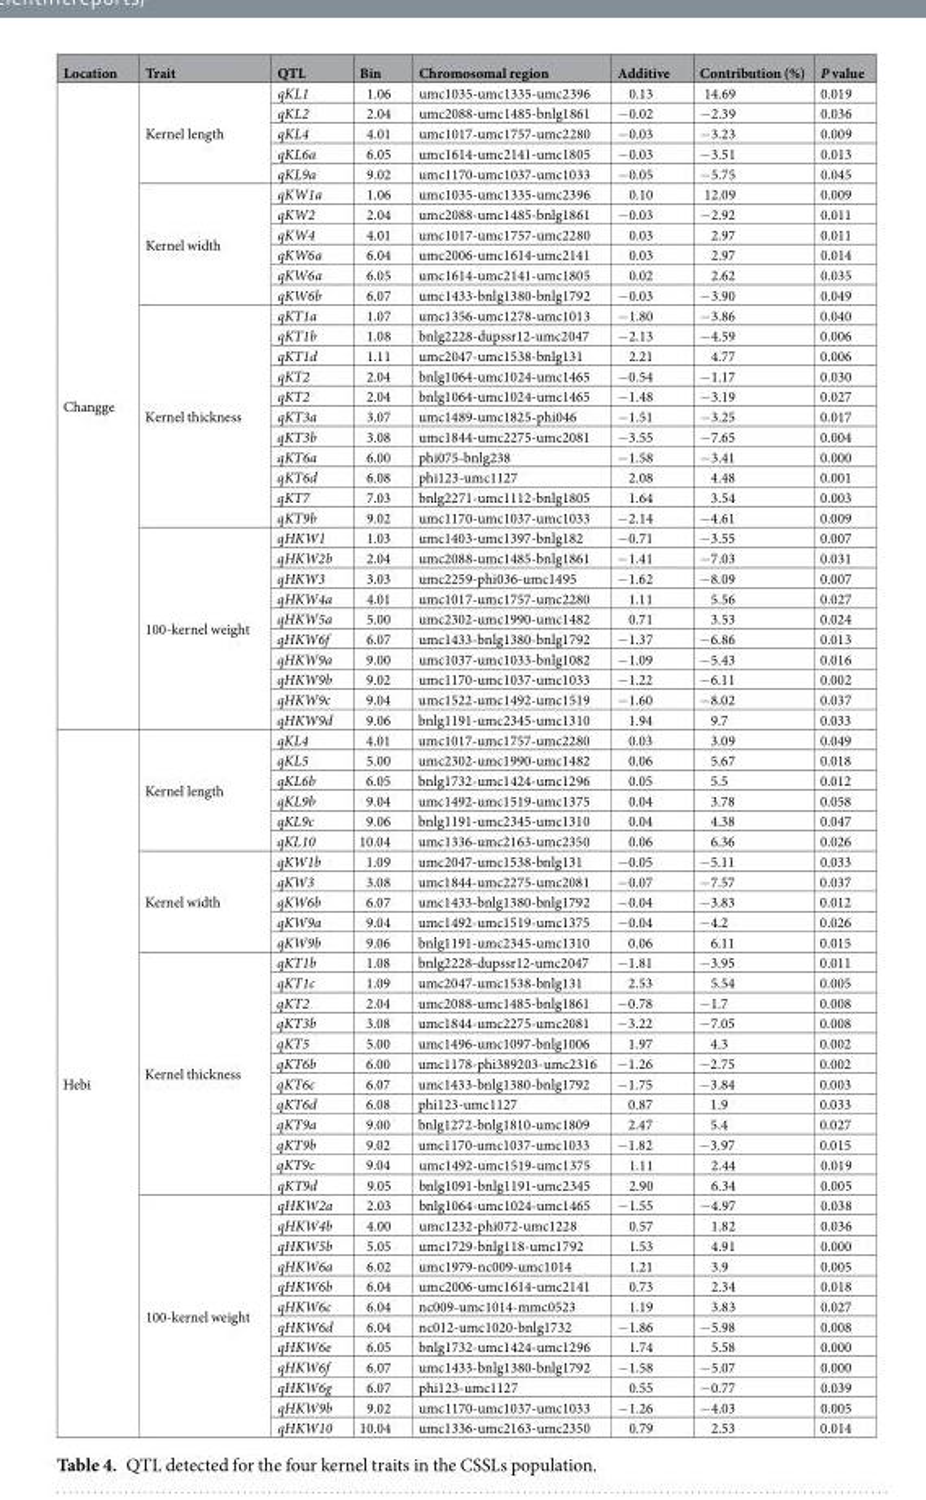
<table><thead><tr><td>Location</td><td>Trait</td><td>QTL</td><td>Bin</td><td>Chromosomal region</td><td>Additive</td><td>Contribution (%)</td><td>P value</td></tr></thead><tbody><tr><td rowspan="32">Changge</td><td rowspan="5">Kernel length</td><td>qKL1</td><td>1.06</td><td>umc1035-umc1335-umc2396</td><td>0.13</td><td>14.69</td><td>0.019</td></tr><tr><td>qKL2</td><td>2.04</td><td>umc2088-umc1485-bnlg1861</td><td>−0.02</td><td>−2.39</td><td>0.036</td></tr><tr><td>qKL4</td><td>4.01</td><td>umc1017-umc1757-umc2280</td><td>−0.03</td><td>−3.23</td><td>0.009</td></tr><tr><td>qKL6a</td><td>6.05</td><td>umc1614-umc2141-umc1805</td><td>−0.03</td><td>−3.51</td><td>0.013</td></tr><tr><td>qKL9a</td><td>9.02</td><td>umc1170-umc1037-umc1033</td><td>−0.05</td><td>−5.75</td><td>0.045</td></tr><tr><td rowspan="6">Kernel width</td><td>qKW1a</td><td>1.06</td><td>umc1035-umc1335-umc2396</td><td>0.10</td><td>12.09</td><td>0.009</td></tr><tr><td>qKW2</td><td>2.04</td><td>umc2088-umc1485-bnlg1861</td><td>−0.03</td><td>−2.92</td><td>0.011</td></tr><tr><td>qKW4</td><td>4.01</td><td>umc1017-umc1757-umc2280</td><td>0.03</td><td>2.97</td><td>0.011</td></tr><tr><td>qKW6a</td><td>6.04</td><td>umc2006-umc1614-umc2141</td><td>0.03</td><td>2.97</td><td>0.014</td></tr><tr><td>qKW6a</td><td>6.05</td><td>umc1614-umc2141-umc1805</td><td>0.02</td><td>2.62</td><td>0.035</td></tr><tr><td>qKW6b</td><td>6.07</td><td>umc1433-bnlg1380-bnlg1792</td><td>−0.03</td><td>−3.90</td><td>0.049</td></tr><tr><td rowspan="11">Kernel thickness</td><td>qKT1a</td><td>1.07</td><td>umc1356-umc1278-umc1013</td><td>−1.80</td><td>−3.86</td><td>0.040</td></tr><tr><td>qKT1b</td><td>1.08</td><td>bnlg2228-dupssr12-umc2047</td><td>−2.13</td><td>−4.59</td><td>0.006</td></tr><tr><td>qKT1d</td><td>1.11</td><td>umc2047-umc1538-bnlg131</td><td>2.21</td><td>4.77</td><td>0.006</td></tr><tr><td>qKT2</td><td>2.04</td><td>bnlg1064-umc1024-umc1465</td><td>−0.54</td><td>−1.17</td><td>0.030</td></tr><tr><td>qKT2</td><td>2.04</td><td>bnlg1064-umc1024-umc1465</td><td>−1.48</td><td>−3.19</td><td>0.027</td></tr><tr><td>qKT3a</td><td>3.07</td><td>umc1489-umc1825-phi046</td><td>−1.51</td><td>−3.25</td><td>0.017</td></tr><tr><td>qKT3b</td><td>3.08</td><td>umc1844-umc2275-umc2081</td><td>−3.55</td><td>−7.65</td><td>0.004</td></tr><tr><td>qKT6a</td><td>6.00</td><td>phi075-bnlg238</td><td>−1.58</td><td>−3.41</td><td>0.000</td></tr><tr><td>qKT6d</td><td>6.08</td><td>phi123-umc1127</td><td>2.08</td><td>4.48</td><td>0.001</td></tr><tr><td>qKT7</td><td>7.03</td><td>bnlg2271-umc1112-bnlg1805</td><td>1.64</td><td>3.54</td><td>0.003</td></tr><tr><td>qKT9b</td><td>9.02</td><td>umc1170-umc1037-umc1033</td><td>−2.14</td><td>−4.61</td><td>0.009</td></tr><tr><td rowspan="10">100-kernel weight</td><td>qHKW1</td><td>1.03</td><td>umc1403-umc1397-bnlg182</td><td>−0.71</td><td>−3.55</td><td>0.007</td></tr><tr><td>qHKW2b</td><td>2.04</td><td>umc2088-umc1485-bnlg1861</td><td>−1.41</td><td>−7.03</td><td>0.031</td></tr><tr><td>qHKW3</td><td>3.03</td><td>umc2259-phi036-umc1495</td><td>−1.62</td><td>−8.09</td><td>0.007</td></tr><tr><td>qHKW4a</td><td>4.01</td><td>umc1017-umc1757-umc2280</td><td>1.11</td><td>5.56</td><td>0.027</td></tr><tr><td>qHKW5a</td><td>5.00</td><td>umc2302-umc1990-umc1482</td><td>0.71</td><td>3.53</td><td>0.024</td></tr><tr><td>qHKW6f</td><td>6.07</td><td>umc1433-bnlg1380-bnlg1792</td><td>−1.37</td><td>−6.86</td><td>0.013</td></tr><tr><td>qHKW9a</td><td>9.00</td><td>umc1037-umc1033-bnlg1082</td><td>−1.09</td><td>−5.43</td><td>0.016</td></tr><tr><td>qHKW9b</td><td>9.02</td><td>umc1170-umc1037-umc1033</td><td>−1.22</td><td>−6.11</td><td>0.002</td></tr><tr><td>qHKW9c</td><td>9.04</td><td>umc1522-umc1492-umc1519</td><td>−1.60</td><td>−8.02</td><td>0.037</td></tr><tr><td>qHKW9d</td><td>9.06</td><td>bnlg1191-umc2345-umc1310</td><td>1.94</td><td>9.7</td><td>0.033</td></tr><tr><td rowspan="35">Hebi</td><td rowspan="6">Kernel length</td><td>qKL4</td><td>4.01</td><td>umc1017-umc1757-umc2280</td><td>0.03</td><td>3.09</td><td>0.049</td></tr><tr><td>qKL5</td><td>5.00</td><td>umc2302-umc1990-umc1482</td><td>0.06</td><td>5.67</td><td>0.018</td></tr><tr><td>qKL6b</td><td>6.05</td><td>bnlg1732-umc1424-umc1296</td><td>0.05</td><td>5.5</td><td>0.012</td></tr><tr><td>qKL9b</td><td>9.04</td><td>umc1492-umc1519-umc1375</td><td>0.04</td><td>3.78</td><td>0.058</td></tr><tr><td>qKL9c</td><td>9.06</td><td>bnlg1191-umc2345-umc1310</td><td>0.04</td><td>4.38</td><td>0.047</td></tr><tr><td>qKL10</td><td>10.04</td><td>umc1336-umc2163-umc2350</td><td>0.06</td><td>6.36</td><td>0.026</td></tr><tr><td rowspan="5">Kernel width</td><td>qKW1b</td><td>1.09</td><td>umc2047-umc1538-bnlg131</td><td>−0.05</td><td>−5.11</td><td>0.033</td></tr><tr><td>qKW3</td><td>3.08</td><td>umc1844-umc2275-umc2081</td><td>−0.07</td><td>−7.57</td><td>0.037</td></tr><tr><td>qKW6b</td><td>6.07</td><td>umc1433-bnlg1380-bnlg1792</td><td>−0.04</td><td>−3.83</td><td>0.012</td></tr><tr><td>qKW9a</td><td>9.04</td><td>umc1492-umc1519-umc1375</td><td>−0.04</td><td>−4.2</td><td>0.026</td></tr><tr><td>qKW9b</td><td>9.06</td><td>bnlg1191-umc2345-umc1310</td><td>0.06</td><td>6.11</td><td>0.015</td></tr><tr><td rowspan="12">Kernel thickness</td><td>qKT1b</td><td>1.08</td><td>bnlg2228-dupssr12-umc2047</td><td>−1.81</td><td>−3.95</td><td>0.011</td></tr><tr><td>qKT1c</td><td>1.09</td><td>umc2047-umc1538-bnlg131</td><td>2.53</td><td>5.54</td><td>0.005</td></tr><tr><td>qKT2</td><td>2.04</td><td>umc2088-umc1485-bnlg1861</td><td>−0.78</td><td>−1.7</td><td>0.008</td></tr><tr><td>qKT3b</td><td>3.08</td><td>umc1844-umc2275-umc2081</td><td>−3.22</td><td>−7.05</td><td>0.008</td></tr><tr><td>qKT5</td><td>5.00</td><td>umc1496-umc1097-bnlg1006</td><td>1.97</td><td>4.3</td><td>0.002</td></tr><tr><td>qKT6b</td><td>6.00</td><td>umc1178-phi389203-umc2316</td><td>−1.26</td><td>−2.75</td><td>0.002</td></tr><tr><td>qKT6c</td><td>6.07</td><td>umc1433-bnlg1380-bnlg1792</td><td>−1.75</td><td>−3.84</td><td>0.003</td></tr><tr><td>qKT6d</td><td>6.08</td><td>phi123-umc1127</td><td>0.87</td><td>1.9</td><td>0.033</td></tr><tr><td>qKT9a</td><td>9.00</td><td>bnlg1272-bnlg1810-umc1809</td><td>2.47</td><td>5.4</td><td>0.027</td></tr><tr><td>qKT9b</td><td>9.02</td><td>umc1170-umc1037-umc1033</td><td>−1.82</td><td>−3.97</td><td>0.015</td></tr><tr><td>qKT9c</td><td>9.04</td><td>umc1492-umc1519-umc1375</td><td>1.11</td><td>2.44</td><td>0.019</td></tr><tr><td>qKT9d</td><td>9.05</td><td>bnlg1091-bnlg1191-umc2345</td><td>2.90</td><td>6.34</td><td>0.005</td></tr><tr><td rowspan="12">100-kernel weight</td><td>qHKW2a</td><td>2.03</td><td>bnlg1064-umc1024-umc1465</td><td>−1.55</td><td>−4.97</td><td>0.038</td></tr><tr><td>qHKW4b</td><td>4.00</td><td>umc1232-phi072-umc1228</td><td>0.57</td><td>1.82</td><td>0.036</td></tr><tr><td>qHKW5b</td><td>5.05</td><td>umc1729-bnlg118-umc1792</td><td>1.53</td><td>4.91</td><td>0.000</td></tr><tr><td>qHKW6a</td><td>6.02</td><td>umc1979-nc009-umc1014</td><td>1.21</td><td>3.9</td><td>0.005</td></tr><tr><td>qHKW6b</td><td>6.04</td><td>umc2006-umc1614-umc2141</td><td>0.73</td><td>2.34</td><td>0.018</td></tr><tr><td>qHKW6c</td><td>6.04</td><td>nc009-umc1014-mmc0523</td><td>1.19</td><td>3.83</td><td>0.027</td></tr><tr><td>qHKW6d</td><td>6.04</td><td>nc012-umc1020-bnlg1732</td><td>−1.86</td><td>−5.98</td><td>0.008</td></tr><tr><td>qHKW6e</td><td>6.05</td><td>bnlg1732-umc1424-umc1296</td><td>1.74</td><td>5.58</td><td>0.000</td></tr><tr><td>qHKW6f</td><td>6.07</td><td>umc1433-bnlg1380-bnlg1792</td><td>−1.58</td><td>−5.07</td><td>0.000</td></tr><tr><td>qHKW6g</td><td>6.07</td><td>phi123-umc1127</td><td>0.55</td><td>−0.77</td><td>0.039</td></tr><tr><td>qHKW9b</td><td>9.02</td><td>umc1170-umc1037-umc1033</td><td>−1.26</td><td>−4.03</td><td>0.005</td></tr><tr><td>qHKW10</td><td>10.04</td><td>umc1336-umc2163-umc2350</td><td>0.79</td><td>2.53</td><td>0.014</td></tr></tbody></table>